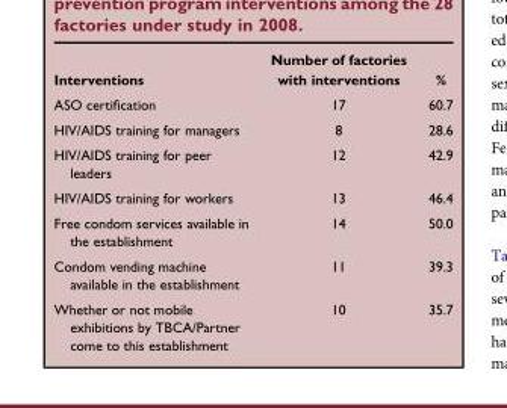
<table><thead><tr><td>Interventions</td><td>Number of factories with interventions</td><td>%</td></tr></thead><tbody><tr><td>ASO certification</td><td>17</td><td>60.7</td></tr><tr><td>HIV/AIDS training for managers</td><td>8</td><td>28.6</td></tr><tr><td>HIV/AIDS training for peer leaders</td><td>12</td><td>42.9</td></tr><tr><td>HIV/AIDS training for workers</td><td>13</td><td>46.4</td></tr><tr><td>Free condom services available in the establishment</td><td>14</td><td>50.0</td></tr><tr><td>Condom vending machine available in the establishment</td><td>11</td><td>39.3</td></tr><tr><td>Whether or not mobile exhibitions by TBCA/Partner come to this establishment</td><td>10</td><td>35.7</td></tr></tbody></table>